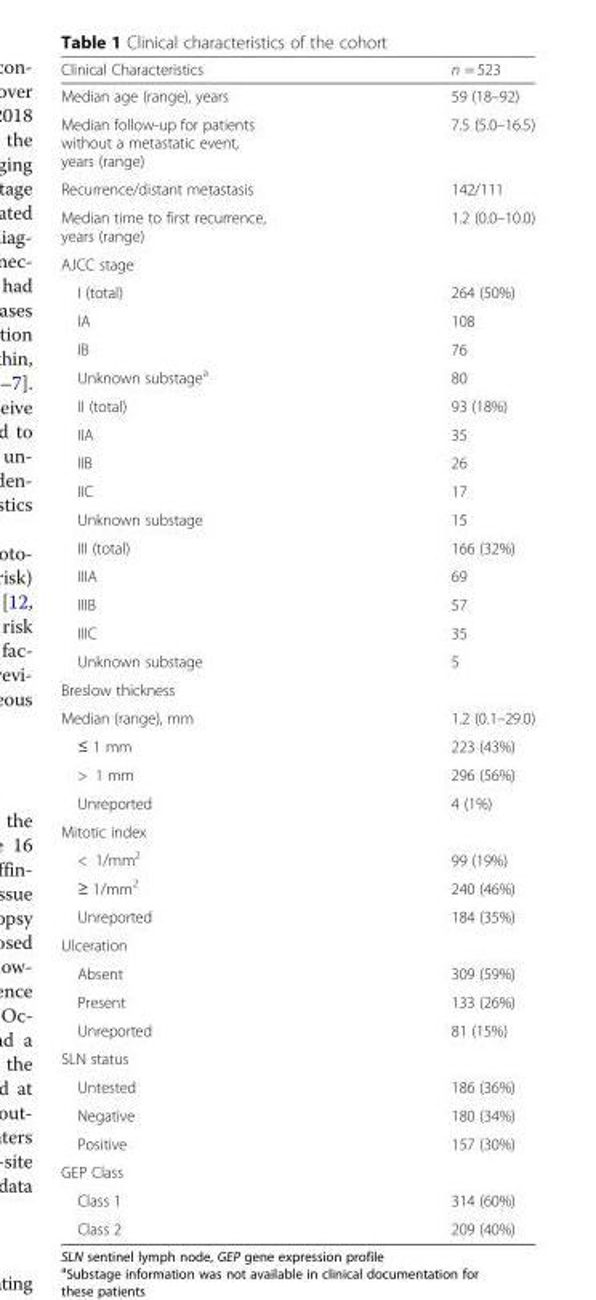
<table><thead><tr><td>Clinical Characteristics</td><td>n = 523</td></tr></thead><tbody><tr><td>Median age (range), years</td><td>59 (18–92)</td></tr><tr><td>Median follow-up for patients without a metastatic event, years (range)</td><td>7.5 (5.0–16.5)</td></tr><tr><td>Recurrence/distant metastasis</td><td>142/111</td></tr><tr><td>Median time to first recurrence, years (range)</td><td>1.2 (0.0–10.0)</td></tr><tr><td colspan="2">AJCC stage</td></tr><tr><td>I (total)</td><td>264 (50%)</td></tr><tr><td>IA</td><td>108</td></tr><tr><td>IB</td><td>76</td></tr><tr><td>Unknown substage<sup>a</sup></td><td>80</td></tr><tr><td>II (total)</td><td>93 (18%)</td></tr><tr><td>IIA</td><td>35</td></tr><tr><td>IIB</td><td>26</td></tr><tr><td>IIC</td><td>17</td></tr><tr><td>Unknown substage</td><td>15</td></tr><tr><td>III (total)</td><td>166 (32%)</td></tr><tr><td>IIIA</td><td>69</td></tr><tr><td>IIIB</td><td>57</td></tr><tr><td>IIIC</td><td>35</td></tr><tr><td>Unknown substage</td><td>5</td></tr><tr><td colspan="2">Breslow thickness</td></tr><tr><td>Median (range), mm</td><td>1.2 (0.1–29.0)</td></tr><tr><td>≤ 1 mm</td><td>223 (43%)</td></tr><tr><td>&gt; 1 mm</td><td>296 (56%)</td></tr><tr><td>Unreported</td><td>4 (1%)</td></tr><tr><td colspan="2">Mitotic index</td></tr><tr><td>&lt; 1/mm<sup>2</sup></td><td>99 (19%)</td></tr><tr><td>≥ 1/mm<sup>2</sup></td><td>240 (46%)</td></tr><tr><td>Unreported</td><td>184 (35%)</td></tr><tr><td colspan="2">Ulceration</td></tr><tr><td>Absent</td><td>309 (59%)</td></tr><tr><td>Present</td><td>133 (26%)</td></tr><tr><td>Unreported</td><td>81 (15%)</td></tr><tr><td colspan="2">SLN status</td></tr><tr><td>Untested</td><td>186 (36%)</td></tr><tr><td>Negative</td><td>180 (34%)</td></tr><tr><td>Positive</td><td>157 (30%)</td></tr><tr><td colspan="2">GEP Class</td></tr><tr><td>Class 1</td><td>314 (60%)</td></tr><tr><td>Class 2</td><td>209 (40%)</td></tr></tbody></table>